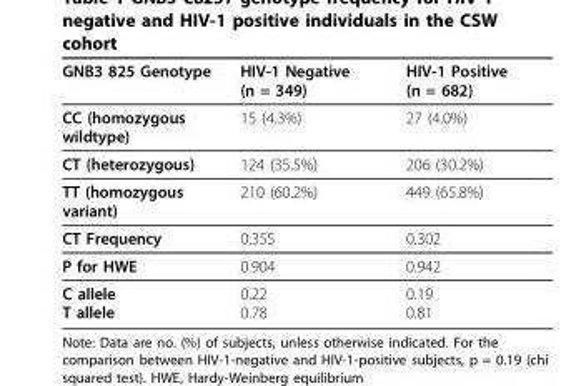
<table><thead><tr><td>GNB3 825 Genotype</td><td>HIV-1 Negative (n = 349)</td><td>HIV-1 Positive (n = 682)</td></tr></thead><tbody><tr><td>CC (homozygous wildtype)</td><td>15 (4.3%)</td><td>27 (4.0%)</td></tr><tr><td>CT (heterozygous)</td><td>124 (35.5%)</td><td>206 (30.2%)</td></tr><tr><td>TT (homozygous variant)</td><td>210 (60.2%)</td><td>449 (65.8%)</td></tr><tr><td>CT Frequency</td><td>0.355</td><td>0.302</td></tr><tr><td>P for HWE</td><td>0.904</td><td>0.942</td></tr><tr><td>C allele T allele</td><td>0.22 0.78</td><td>0.19 0.81</td></tr></tbody></table>